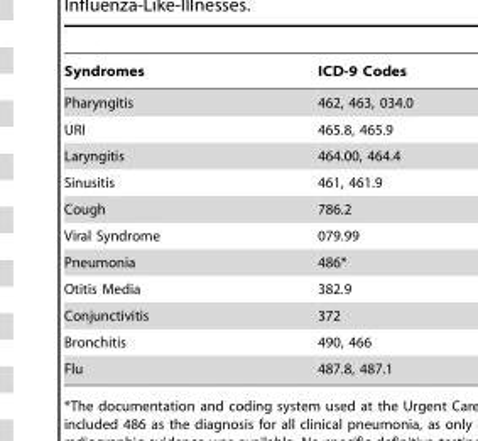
<table><thead><tr><td>Syndromes</td><td>ICD-9 Codes</td></tr></thead><tbody><tr><td>Pharyngitis</td><td>462, 463, 034.0</td></tr><tr><td>URI</td><td>465.8, 465.9</td></tr><tr><td>Laryngitis</td><td>464.00, 464.4</td></tr><tr><td>Sinusitis</td><td>461, 461.9</td></tr><tr><td>Cough</td><td>786.2</td></tr><tr><td>Viral Syndrome</td><td>079.99</td></tr><tr><td>Pneumonia</td><td>486*</td></tr><tr><td>Otitis Media</td><td>382.9</td></tr><tr><td>Conjunctivitis</td><td>372</td></tr><tr><td>Bronchitis</td><td>490, 466</td></tr><tr><td>Flu</td><td>487.8, 487.1</td></tr></tbody></table>